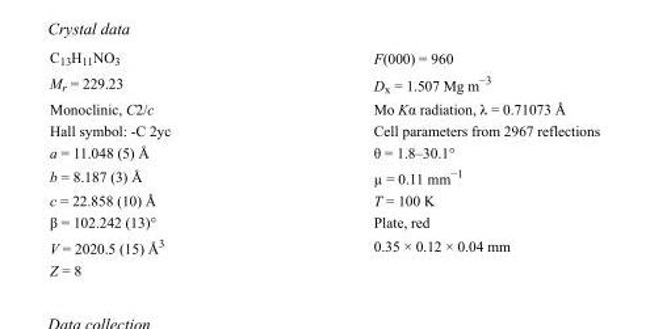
<table><tbody><tr><td>C<sub>13</sub>H<sub>11</sub>NO<sub>3</sub></td><td>F(000) = 960</td></tr><tr><td>M<sub>r</sub> = 229.23</td><td>D<sub>x</sub> = 1.507 Mg m<sup>−3</sup></td></tr><tr><td>Monoclinic, C2/c</td><td>Mo Kα radiation, λ = 0.71073 Å</td></tr><tr><td>Hall symbol: -C 2yc</td><td>Cell parameters from 2967 reflections</td></tr><tr><td>a = 11.048 (5) Å</td><td>θ = 1.8–30.1°</td></tr><tr><td>b = 8.187 (3) Å</td><td>µ = 0.11 mm<sup>−1</sup></td></tr><tr><td>c = 22.858 (10) Å</td><td>T = 100 K</td></tr><tr><td>β = 102.242 (13)°</td><td>Plate, red</td></tr><tr><td>V = 2020.5 (15) Å<sup>3</sup></td><td>0.35 × 0.12 × 0.04 mm</td></tr><tr><td>Z = 8</td><td></td></tr></tbody></table>